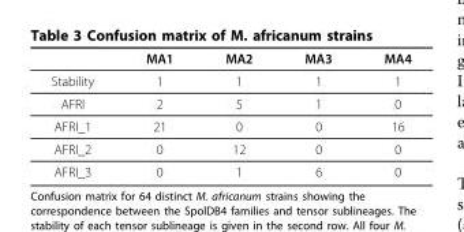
<table><thead><tr><td></td><td>MA1</td><td>MA2</td><td>MA3</td><td>MA4</td></tr></thead><tbody><tr><td>Stability</td><td>1</td><td>1</td><td>1</td><td>1</td></tr><tr><td>AFRI</td><td>2</td><td>5</td><td>1</td><td>0</td></tr><tr><td>AFRI_1</td><td>21</td><td>0</td><td>0</td><td>16</td></tr><tr><td>AFRI_2</td><td>0</td><td>12</td><td>0</td><td>0</td></tr><tr><td>AFRI_3</td><td>0</td><td>1</td><td>6</td><td>0</td></tr></tbody></table>